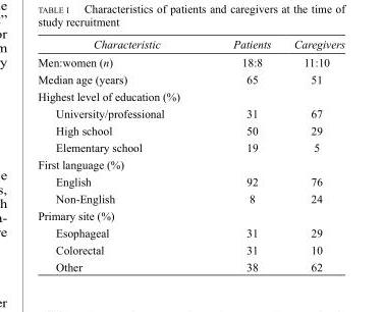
<table><thead><tr><td>Characteristic</td><td>Patients</td><td>Caregivers</td></tr></thead><tbody><tr><td>Men:women (n)</td><td>18:8</td><td>11:10</td></tr><tr><td>Median age (years)</td><td>65</td><td>51</td></tr><tr><td colspan="3">Highest level of education (%)</td></tr><tr><td>University/professional</td><td>31</td><td>67</td></tr><tr><td>High school</td><td>50</td><td>29</td></tr><tr><td>Elementary school</td><td>19</td><td>5</td></tr><tr><td colspan="3">First language (%)</td></tr><tr><td>English</td><td>92</td><td>76</td></tr><tr><td>Non-English</td><td>8</td><td>24</td></tr><tr><td colspan="3">Primary site (%)</td></tr><tr><td>Esophageal</td><td>31</td><td>29</td></tr><tr><td>Colorectal</td><td>31</td><td>10</td></tr><tr><td>Other</td><td>38</td><td>62</td></tr></tbody></table>